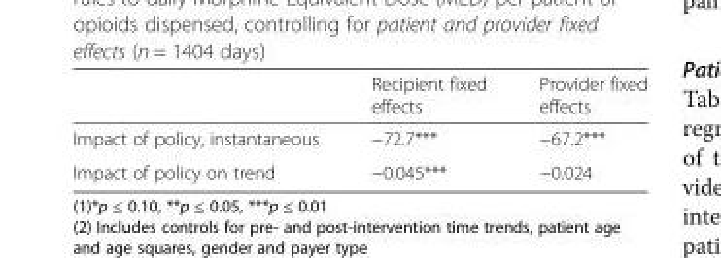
<table><thead><tr><td></td><td>Recipient fixed effects</td><td>Provider fixed effects</td></tr></thead><tbody><tr><td>Impact of policy, instantaneous</td><td>−72.7***</td><td>−67.2***</td></tr><tr><td>Impact of policy on trend</td><td>−0.045***</td><td>−0.024</td></tr></tbody></table>